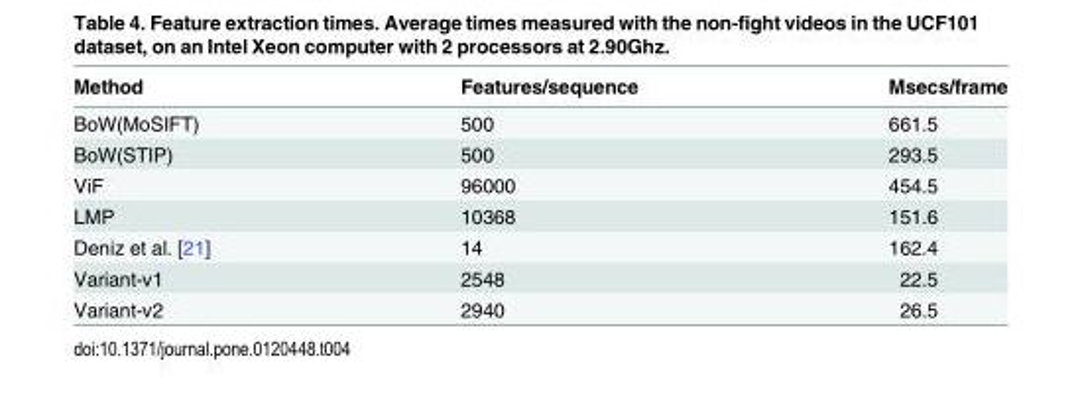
<table><thead><tr><td>Method</td><td>Features/sequence</td><td>Msecs/frame</td></tr></thead><tbody><tr><td>BoW(MoSIFT)</td><td>500</td><td>661.5</td></tr><tr><td>BoW(STIP)</td><td>500</td><td>293.5</td></tr><tr><td>ViF</td><td>96000</td><td>454.5</td></tr><tr><td>LMP</td><td>10368</td><td>151.6</td></tr><tr><td>Deniz et al. [21]</td><td>14</td><td>162.4</td></tr><tr><td>Variant-v1</td><td>2548</td><td>22.5</td></tr><tr><td>Variant-v2</td><td>2940</td><td>26.5</td></tr></tbody></table>